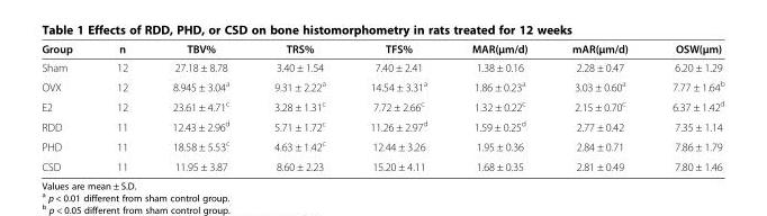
<table><thead><tr><td>Group</td><td>n</td><td>TBV%</td><td>TRS%</td><td>TFS%</td><td>MAR(μm/d)</td><td>mAR(μm/d)</td><td>OSW(μm)</td></tr></thead><tbody><tr><td>Sham</td><td>12</td><td>27.18 ± 8.78</td><td>3.40 ± 1.54</td><td>7.40 ± 2.41</td><td>1.38 ± 0.16</td><td>2.28 ± 0.47</td><td>6.20 ± 1.29</td></tr><tr><td>OVX</td><td>12</td><td>8.945 ± 3.04<sup>a</sup></td><td>9.31 ± 2.22<sup>a</sup></td><td>14.54 ± 3.31<sup>a</sup></td><td>1.86 ± 0.23<sup>a</sup></td><td>3.03 ± 0.60<sup>a</sup></td><td>7.77 ± 1.64<sup>b</sup></td></tr><tr><td>E2</td><td>12</td><td>23.61 ± 4.71<sup>c</sup></td><td>3.28 ± 1.31<sup>c</sup></td><td>7.72 ± 2.66<sup>c</sup></td><td>1.32 ± 0.22<sup>c</sup></td><td>2.15 ± 0.70<sup>c</sup></td><td>6.37 ± 1.42<sup>d</sup></td></tr><tr><td>RDD</td><td>11</td><td>12.43 ± 2.96<sup>d</sup></td><td>5.71 ± 1.72<sup>c</sup></td><td>11.26 ± 2.97<sup>d</sup></td><td>1.59 ± 0.25<sup>d</sup></td><td>2.77 ± 0.42</td><td>7.35 ± 1.14</td></tr><tr><td>PHD</td><td>11</td><td>18.58 ± 5.53<sup>c</sup></td><td>4.63 ± 1.42<sup>c</sup></td><td>12.44 ± 3.26</td><td>1.95 ± 0.36</td><td>2.84 ± 0.71</td><td>7.86 ± 1.79</td></tr><tr><td>CSD</td><td>11</td><td>11.95 ± 3.87</td><td>8.60 ± 2.23</td><td>15.20 ± 4.11</td><td>1.68 ± 0.35</td><td>2.81 ± 0.49</td><td>7.80 ± 1.46</td></tr></tbody></table>